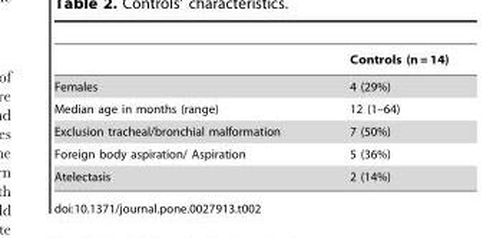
<table><thead><tr><td></td><td>Controls (n = 14)</td></tr></thead><tbody><tr><td>Females</td><td>4 (29%)</td></tr><tr><td>Median age in months (range)</td><td>12 (1–64)</td></tr><tr><td>Exclusion tracheal/bronchial malformation</td><td>7 (50%)</td></tr><tr><td>Foreign body aspiration/ Aspiration</td><td>5 (36%)</td></tr><tr><td>Atelectasis</td><td>2 (14%)</td></tr></tbody></table>